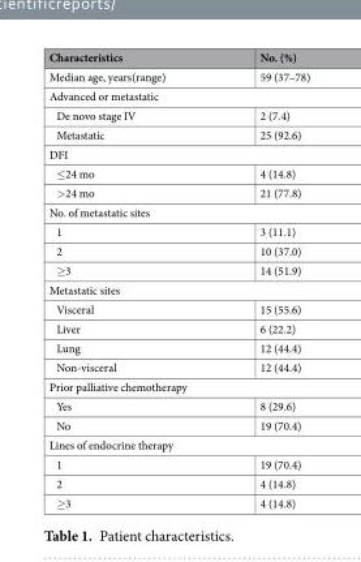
<table><thead><tr><td>Characteristics</td><td>No. (%)</td></tr></thead><tbody><tr><td>Median age, years(range)</td><td>59 (37–78)</td></tr><tr><td colspan="2">Advanced or metastatic</td></tr><tr><td>De novo stage IV</td><td>2 (7.4)</td></tr><tr><td>Metastatic</td><td>25 (92.6)</td></tr><tr><td colspan="2">DFI</td></tr><tr><td>≤24 mo</td><td>4 (14.8)</td></tr><tr><td>&gt;24 mo</td><td>21 (77.8)</td></tr><tr><td colspan="2">No. of metastatic sites</td></tr><tr><td>1</td><td>3 (11.1)</td></tr><tr><td>2</td><td>10 (37.0)</td></tr><tr><td>≥3</td><td>14 (51.9)</td></tr><tr><td colspan="2">Metastatic sites</td></tr><tr><td>Visceral</td><td>15 (55.6)</td></tr><tr><td>Liver</td><td>6 (22.2)</td></tr><tr><td>Lung</td><td>12 (44.4)</td></tr><tr><td>Non-visceral</td><td>12 (44.4)</td></tr><tr><td colspan="2">Prior palliative chemotherapy</td></tr><tr><td>Yes</td><td>8 (29.6)</td></tr><tr><td>No</td><td>19 (70.4)</td></tr><tr><td colspan="2">Lines of endocrine therapy</td></tr><tr><td>1</td><td>19 (70.4)</td></tr><tr><td>2</td><td>4 (14.8)</td></tr><tr><td>≥3</td><td>4 (14.8)</td></tr></tbody></table>